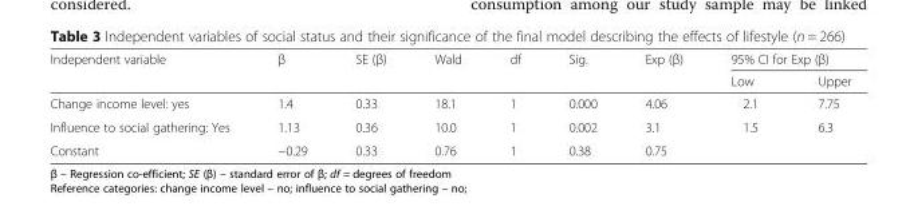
<table><thead><tr><td rowspan="2">Independent variable</td><td rowspan="2">β</td><td rowspan="2">SE (β)</td><td rowspan="2">Wald</td><td rowspan="2">df</td><td rowspan="2">Sig.</td><td rowspan="2">Exp (β)</td><td colspan="2">95% CI for Exp (β)</td></tr><tr><td>Low</td><td>Upper</td></tr></thead><tbody><tr><td>Change income level: yes</td><td>1.4</td><td>0.33</td><td>18.1</td><td>1</td><td>0.000</td><td>4.06</td><td>2.1</td><td>7.75</td></tr><tr><td>Influence to social gathering: Yes</td><td>1.13</td><td>0.36</td><td>10.0</td><td>1</td><td>0.002</td><td>3.1</td><td rowspan="2">1.5</td><td rowspan="2">6.3</td></tr><tr><td>Constant</td><td>−0.29</td><td>0.33</td><td>0.76</td><td>1</td><td>0.38</td><td>0.75</td></tr></tbody></table>